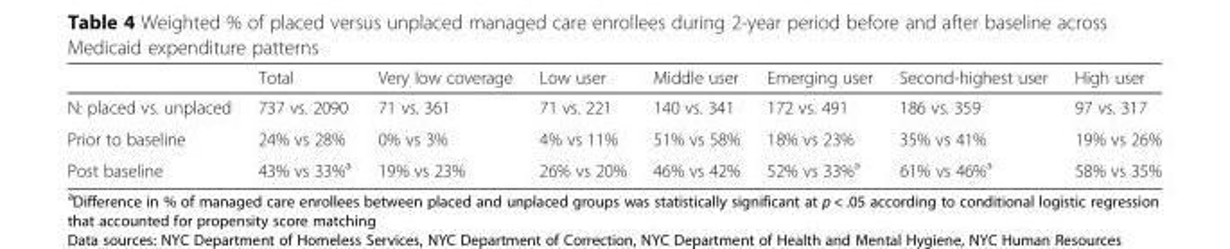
<table><thead><tr><td></td><td>Total</td><td>Very low coverage</td><td>Low user</td><td>Middle user</td><td>Emerging user</td><td>Second-highest user</td><td>High user</td></tr></thead><tbody><tr><td>N: placed vs. unplaced</td><td>737 vs. 2090</td><td>71 vs. 361</td><td>71 vs. 221</td><td>140 vs. 341</td><td>172 vs. 491</td><td>186 vs. 359</td><td>97 vs. 317</td></tr><tr><td>Prior to baseline</td><td>24% vs 28%</td><td>0% vs 3%</td><td>4% vs 11%</td><td>51% vs 58%</td><td>18% vs 23%</td><td>35% vs 41%</td><td>19% vs 26%</td></tr><tr><td>Post baseline</td><td>43% vs 33%<sup>a</sup></td><td>19% vs 23%</td><td>26% vs 20%</td><td>46% vs 42%</td><td>52% vs 33%<sup>a</sup></td><td>61% vs 46%<sup>a</sup></td><td>58% vs 35%</td></tr></tbody></table>